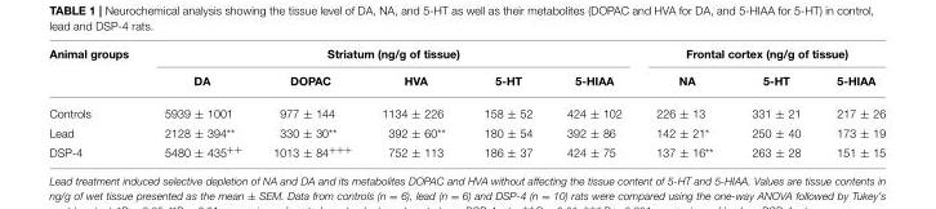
<table><thead><tr><td rowspan="2">Animal groups</td><td colspan="5">Striatum (ng/g of tissue)</td><td colspan="3">Frontal cortex (ng/g of tissue)</td></tr><tr><td>DA</td><td>DOPAC</td><td>HVA</td><td>5-HT</td><td>5-HIAA</td><td>NA</td><td>5-HT</td><td>5-HIAA</td></tr></thead><tbody><tr><td>Controls</td><td>5939 ± 1001</td><td>977 ± 144</td><td>1134 ± 226</td><td>158 ± 52</td><td>424 ± 102</td><td>226 ± 13</td><td>331 ± 21</td><td>217 ± 26</td></tr><tr><td>Lead</td><td>2128 ± 394**</td><td>330 ± 30**</td><td>392 ± 60**</td><td>180 ± 54</td><td>392 ± 86</td><td>142 ± 21*</td><td>250 ± 40</td><td>173 ± 19</td></tr><tr><td>DSP-4</td><td>5480 ± 435<sup>++</sup></td><td>1013 ± 84<sup>+++</sup></td><td>752 ± 113</td><td>186 ± 37</td><td>424 ± 75</td><td>137 ± 16**</td><td>263 ± 28</td><td>151 ± 15</td></tr></tbody></table>